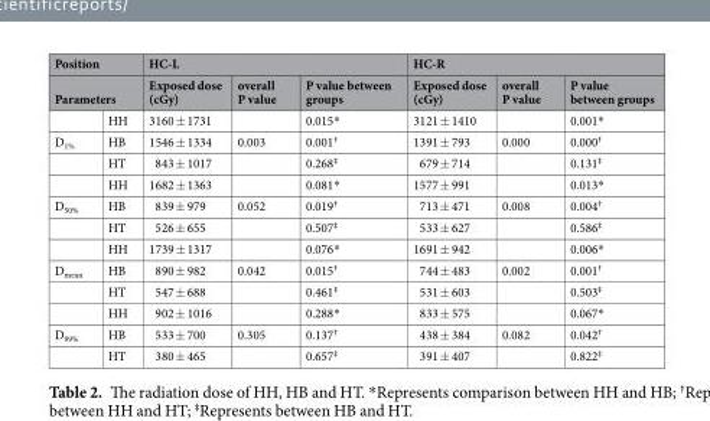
<table><thead><tr><td rowspan="2" colspan="2">Position Parameters</td><td colspan="3">HC-L</td><td colspan="3">HC-R</td></tr><tr><td rowspan="2">Exposed dose (cGy) 3160 ± 1731</td><td rowspan="2">overall P value</td><td rowspan="2">P value between groups 0.015*</td><td rowspan="2">Exposed dose (cGy) 3121 ± 1410</td><td rowspan="2">overall P value</td><td rowspan="2">P value between groups 0.001*</td></tr><tr><td></td><td>HH</td></tr></thead><tbody><tr><td rowspan="3">D<sub>1%</sub></td><td>HB</td><td>1546 ± 1334</td><td>0.003</td><td>0.001<sup>†</sup></td><td>1391 ± 793</td><td>0.000</td><td>0.000<sup>†</sup></td></tr><tr><td>HT</td><td>843 ± 1017</td><td></td><td>0.268<sup>‡</sup></td><td>679 ± 714</td><td></td><td>0.131<sup>‡</sup></td></tr><tr><td>HH</td><td>1682 ± 1363</td><td></td><td>0.081*</td><td>1577 ± 991</td><td></td><td>0.013*</td></tr><tr><td rowspan="3">D<sub>50%</sub></td><td>HB</td><td>839 ± 979</td><td>0.052</td><td>0.019<sup>†</sup></td><td>713 ± 471</td><td>0.008</td><td>0.004<sup>†</sup></td></tr><tr><td>HT</td><td>526 ± 655</td><td></td><td>0.507<sup>‡</sup></td><td>533 ± 627</td><td></td><td>0.586<sup>‡</sup></td></tr><tr><td>HH</td><td>1739 ± 1317</td><td></td><td>0.076*</td><td>1691 ± 942</td><td></td><td>0.006*</td></tr><tr><td rowspan="3">D<sub>mean</sub></td><td>HB</td><td>890 ± 982</td><td>0.042</td><td>0.015<sup>†</sup></td><td>744 ± 483</td><td>0.002</td><td>0.001<sup>†</sup></td></tr><tr><td>HT</td><td>547 ± 688</td><td></td><td>0.461<sup>‡</sup></td><td>531 ± 603</td><td></td><td>0.503<sup>‡</sup></td></tr><tr><td>HH</td><td>902 ± 1016</td><td></td><td>0.288*</td><td>833 ± 575</td><td></td><td>0.067*</td></tr><tr><td rowspan="2">D<sub>99%</sub></td><td>HB</td><td>533 ± 700</td><td>0.305</td><td>0.137<sup>†</sup></td><td>438 ± 384</td><td>0.082</td><td>0.042<sup>†</sup></td></tr><tr><td>HT</td><td>380 ± 465</td><td></td><td>0.657<sup>‡</sup></td><td>391 ± 407</td><td></td><td>0.822<sup>‡</sup></td></tr></tbody></table>